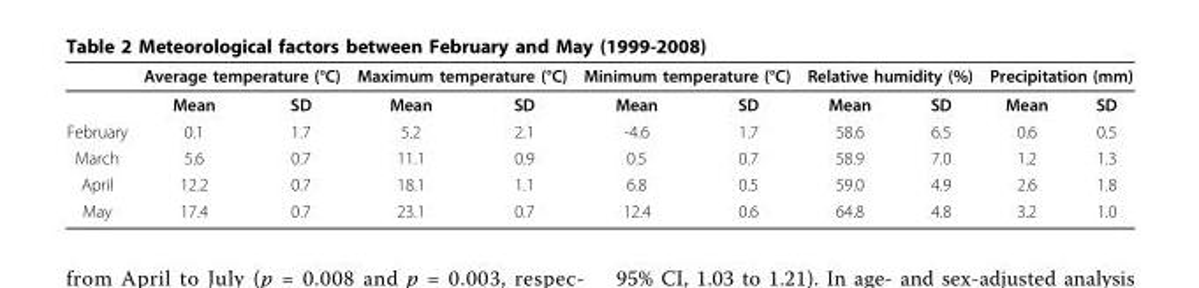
<table><thead><tr><td rowspan="2"></td><td colspan="2">Average temperature (°C)</td><td colspan="2">Maximum temperature (°C)</td><td colspan="2">Minimum temperature (°C)</td><td colspan="2">Relative humidity (%)</td><td colspan="2">Precipitation (mm)</td></tr><tr><td>Mean</td><td>SD</td><td>Mean</td><td>SD</td><td>Mean</td><td>SD</td><td>Mean</td><td>SD</td><td>Mean</td><td>SD</td></tr></thead><tbody><tr><td>February</td><td>0.1</td><td>1.7</td><td>5.2</td><td>2.1</td><td>-4.6</td><td>1.7</td><td>58.6</td><td>6.5</td><td>0.6</td><td>0.5</td></tr><tr><td>March</td><td>5.6</td><td>0.7</td><td>11.1</td><td>0.9</td><td>0.5</td><td>0.7</td><td>58.9</td><td>7.0</td><td>1.2</td><td>1.3</td></tr><tr><td>April</td><td>12.2</td><td>0.7</td><td>18.1</td><td>1.1</td><td>6.8</td><td>0.5</td><td>59.0</td><td>4.9</td><td>2.6</td><td>1.8</td></tr><tr><td>May</td><td>17.4</td><td>0.7</td><td>23.1</td><td>0.7</td><td>12.4</td><td>0.6</td><td>64.8</td><td>4.8</td><td>3.2</td><td>1.0</td></tr></tbody></table>